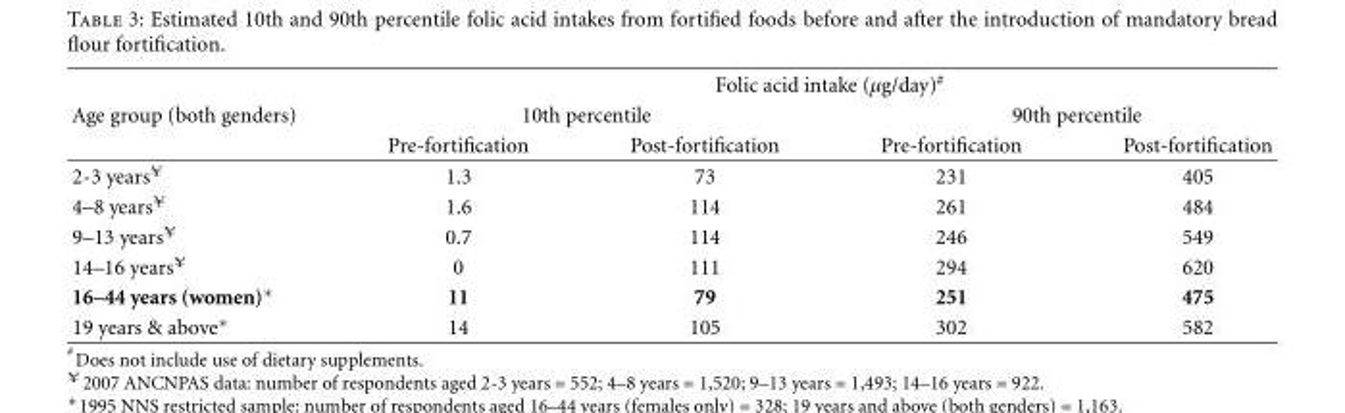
<table><thead><tr><td rowspan="3">Age group (both genders)</td><td colspan="4">Folic acid intake (µg/day)<sup>#</sup></td></tr><tr><td colspan="2">10th percentile</td><td colspan="2">90th percentile</td></tr><tr><td>Pre-fortification</td><td>Post-fortification</td><td>Pre-fortification</td><td>Post-fortification</td></tr></thead><tbody><tr><td>2-3 years<sup>¥</sup></td><td>1.3</td><td>73</td><td>231</td><td>405</td></tr><tr><td>4–8 years<sup>¥</sup></td><td>1.6</td><td>114</td><td>261</td><td>484</td></tr><tr><td>9–13 years<sup>¥</sup></td><td>0.7</td><td>114</td><td>246</td><td>549</td></tr><tr><td>14–16 years<sup>¥</sup></td><td>0</td><td>111</td><td>294</td><td>620</td></tr><tr><td>16–44 years (women)∗</td><td>11</td><td>79</td><td>251</td><td>475</td></tr><tr><td>19 years &amp; above∗</td><td>14</td><td>105</td><td>302</td><td>582</td></tr></tbody></table>